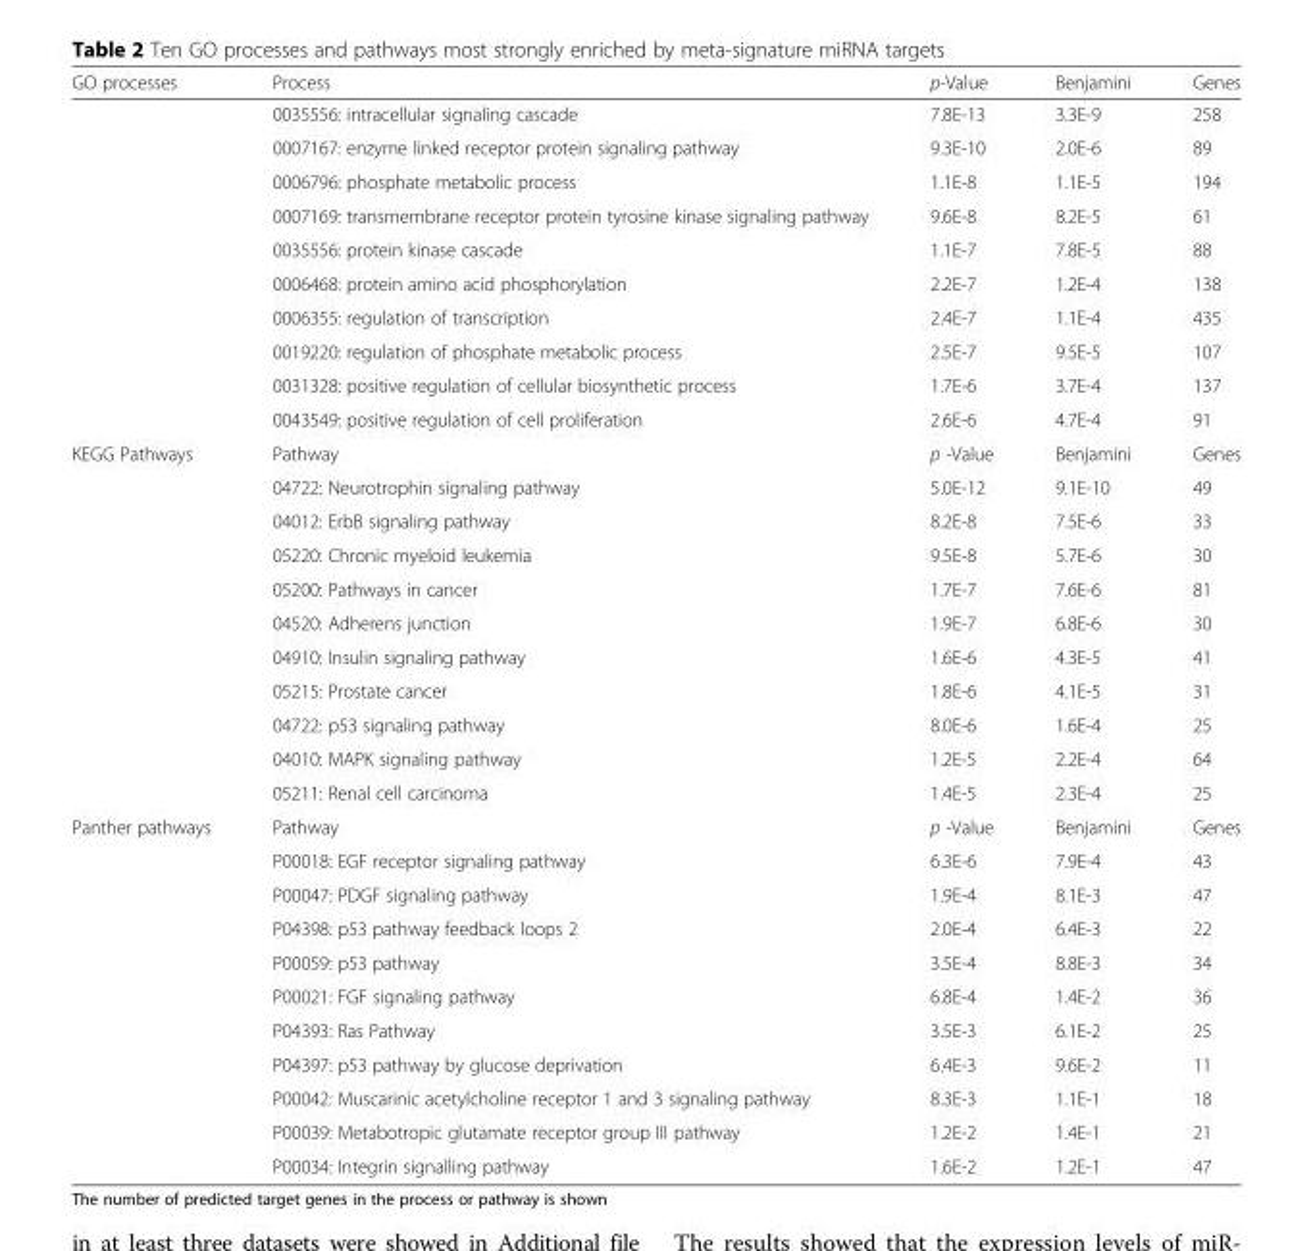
<table><thead><tr><td>GO processes</td><td>Process</td><td>p-Value</td><td>Benjamini</td><td>Genes</td></tr></thead><tbody><tr><td></td><td>0035556: intracellular signaling cascade</td><td>7.8E-13</td><td>3.3E-9</td><td>258</td></tr><tr><td></td><td>0007167: enzyme linked receptor protein signaling pathway</td><td>9.3E-10</td><td>2.0E-6</td><td>89</td></tr><tr><td></td><td>0006796: phosphate metabolic process</td><td>1.1E-8</td><td>1.1E-5</td><td>194</td></tr><tr><td></td><td>0007169: transmembrane receptor protein tyrosine kinase signaling pathway</td><td>9.6E-8</td><td>8.2E-5</td><td>61</td></tr><tr><td></td><td>0035556: protein kinase cascade</td><td>1.1E-7</td><td>7.8E-5</td><td>88</td></tr><tr><td></td><td>0006468: protein amino acid phosphorylation</td><td>2.2E-7</td><td>1.2E-4</td><td>138</td></tr><tr><td></td><td>0006355: regulation of transcription</td><td>2.4E-7</td><td>1.1E-4</td><td>435</td></tr><tr><td></td><td>0019220: regulation of phosphate metabolic process</td><td>2.5E-7</td><td>9.5E-5</td><td>107</td></tr><tr><td></td><td>0031328: positive regulation of cellular biosynthetic process</td><td>1.7E-6</td><td>3.7E-4</td><td>137</td></tr><tr><td></td><td>0043549: positive regulation of cell proliferation</td><td>2.6E-6</td><td>4.7E-4</td><td>91</td></tr><tr><td rowspan="11">KEGG Pathways</td><td>Pathway</td><td>p -Value</td><td>Benjamini</td><td>Genes</td></tr><tr><td>04722: Neurotrophin signaling pathway</td><td>5.0E-12</td><td>9.1E-10</td><td>49</td></tr><tr><td>04012: ErbB signaling pathway</td><td>8.2E-8</td><td>7.5E-6</td><td>33</td></tr><tr><td>05220: Chronic myeloid leukemia</td><td>9.5E-8</td><td>5.7E-6</td><td>30</td></tr><tr><td>05200: Pathways in cancer</td><td>1.7E-7</td><td>7.6E-6</td><td>81</td></tr><tr><td>04520: Adherens junction</td><td>1.9E-7</td><td>6.8E-6</td><td>30</td></tr><tr><td>04910: Insulin signaling pathway</td><td>1.6E-6</td><td>4.3E-5</td><td>41</td></tr><tr><td>05215: Prostate cancer</td><td>1.8E-6</td><td>4.1E-5</td><td>31</td></tr><tr><td>04722: p53 signaling pathway</td><td>8.0E-6</td><td>1.6E-4</td><td>25</td></tr><tr><td>04010: MAPK signaling pathway</td><td>1.2E-5</td><td>2.2E-4</td><td>64</td></tr><tr><td>05211: Renal cell carcinoma</td><td>1.4E-5</td><td>2.3E-4</td><td>25</td></tr><tr><td rowspan="11">Panther pathways</td><td>Pathway</td><td>p -Value</td><td>Benjamini</td><td>Genes</td></tr><tr><td>P00018: EGF receptor signaling pathway</td><td>6.3E-6</td><td>7.9E-4</td><td>43</td></tr><tr><td>P00047: PDGF signaling pathway</td><td>1.9E-4</td><td>8.1E-3</td><td>47</td></tr><tr><td>P04398: p53 pathway feedback loops 2</td><td>2.0E-4</td><td>6.4E-3</td><td>22</td></tr><tr><td>P00059: p53 pathway</td><td>3.5E-4</td><td>8.8E-3</td><td>34</td></tr><tr><td>P00021: FGF signaling pathway</td><td>6.8E-4</td><td>1.4E-2</td><td>36</td></tr><tr><td>P04393: Ras Pathway</td><td>3.5E-3</td><td>6.1E-2</td><td>25</td></tr><tr><td>P04397: p53 pathway by glucose deprivation</td><td>6.4E-3</td><td>9.6E-2</td><td>11</td></tr><tr><td>P00042: Muscarinic acetylcholine receptor 1 and 3 signaling pathway</td><td>8.3E-3</td><td>1.1E-1</td><td>18</td></tr><tr><td>P00039: Metabotropic glutamate receptor group III pathway</td><td>1.2E-2</td><td>1.4E-1</td><td>21</td></tr><tr><td>P00034: Integrin signalling pathway</td><td>1.6E-2</td><td>1.2E-1</td><td>47</td></tr></tbody></table>